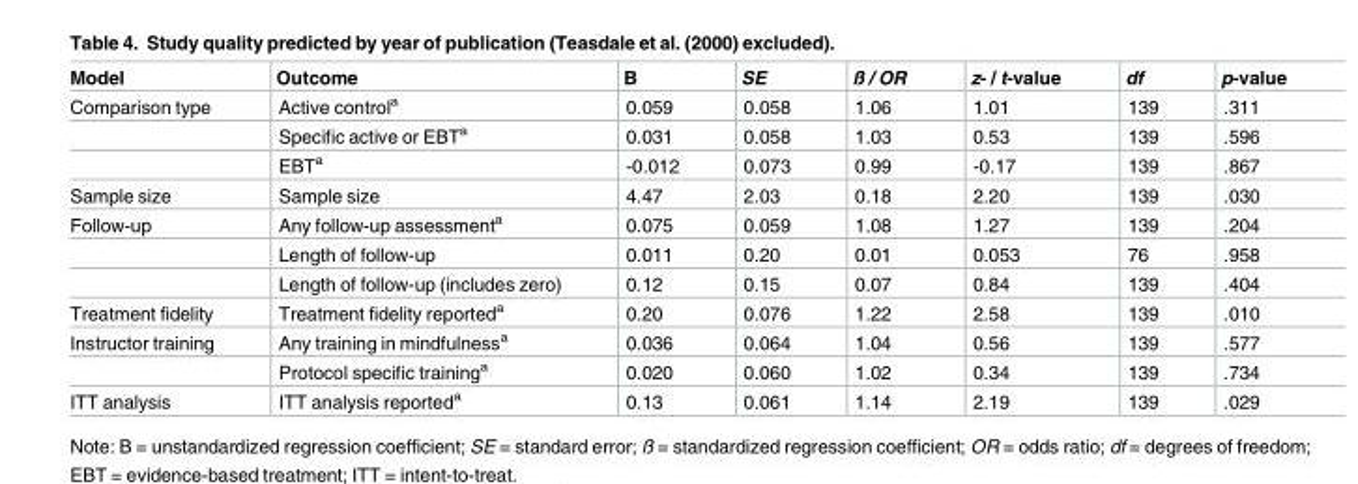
<table><thead><tr><td>Model</td><td>Outcome</td><td>B</td><td>SE</td><td>ß / OR</td><td>z- / t-value</td><td>df</td><td>p-value</td></tr></thead><tbody><tr><td rowspan="3">Comparison type</td><td>Active control<sup>a</sup></td><td>0.059</td><td>0.058</td><td>1.06</td><td>1.01</td><td>139</td><td>.311</td></tr><tr><td>Specific active or EBT<sup>a</sup></td><td>0.031</td><td>0.058</td><td>1.03</td><td>0.53</td><td>139</td><td>.596</td></tr><tr><td>EBT<sup>a</sup></td><td>-0.012</td><td>0.073</td><td>0.99</td><td>-0.17</td><td>139</td><td>.867</td></tr><tr><td>Sample size</td><td>Sample size</td><td>4.47</td><td>2.03</td><td>0.18</td><td>2.20</td><td>139</td><td>.030</td></tr><tr><td rowspan="3">Follow-up</td><td>Any follow-up assessment<sup>a</sup></td><td>0.075</td><td>0.059</td><td>1.08</td><td>1.27</td><td>139</td><td>.204</td></tr><tr><td>Length of follow-up</td><td>0.011</td><td>0.20</td><td>0.01</td><td>0.053</td><td>76</td><td>.958</td></tr><tr><td>Length of follow-up (includes zero)</td><td>0.12</td><td>0.15</td><td>0.07</td><td>0.84</td><td>139</td><td>.404</td></tr><tr><td>Treatment fidelity</td><td>Treatment fidelity reported<sup>a</sup></td><td>0.20</td><td>0.076</td><td>1.22</td><td>2.58</td><td>139</td><td>.010</td></tr><tr><td rowspan="2">Instructor training</td><td>Any training in mindfulness<sup>a</sup></td><td>0.036</td><td>0.064</td><td>1.04</td><td>0.56</td><td>139</td><td>.577</td></tr><tr><td>Protocol specific training<sup>a</sup></td><td>0.020</td><td>0.060</td><td>1.02</td><td>0.34</td><td>139</td><td>.734</td></tr><tr><td>ITT analysis</td><td>ITT analysis reported<sup>a</sup></td><td>0.13</td><td>0.061</td><td>1.14</td><td>2.19</td><td>139</td><td>.029</td></tr></tbody></table>